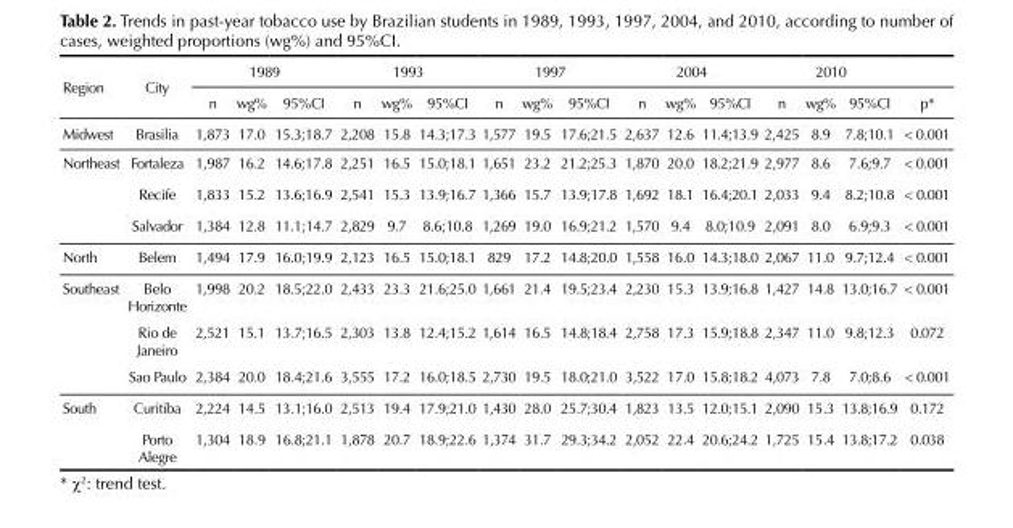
<table><thead><tr><td rowspan="2">Region</td><td rowspan="2">City</td><td colspan="3">1989</td><td colspan="3">1993</td><td colspan="3">1997</td><td colspan="3">2004</td><td colspan="3">2010</td><td rowspan="2">p*</td></tr><tr><td>n</td><td>wg%</td><td>95%CI</td><td>n</td><td>wg%</td><td>95%CI</td><td>n</td><td>wg%</td><td>95%CI</td><td>n</td><td>wg%</td><td>95%CI</td><td>n</td><td>wg%</td><td>95%CI</td></tr></thead><tbody><tr><td>Midwest</td><td>Brasilia</td><td>1,873</td><td>17.0</td><td>15.3;18.7</td><td>2,208</td><td>15.8</td><td>14.3;17.3</td><td>1,577</td><td>19.5</td><td>17.6;21.5</td><td>2,637</td><td>12.6</td><td>11.4;13.9</td><td>2,425</td><td>8.9</td><td>7.8;10.1</td><td>&lt; 0.001</td></tr><tr><td rowspan="3">Northeast</td><td>Fortaleza</td><td>1,987</td><td>16.2</td><td>14.6;17.8</td><td>2,251</td><td>16.5</td><td>15.0;18.1</td><td>1,651</td><td>23.2</td><td>21.2;25.3</td><td>1,870</td><td>20.0</td><td>18.2;21.9</td><td>2,977</td><td>8.6</td><td>7.6;9.7</td><td>&lt; 0.001</td></tr><tr><td>Recife</td><td>1,833</td><td>15.2</td><td>13.6;16.9</td><td>2,541</td><td>15.3</td><td>13.9;16.7</td><td>1,366</td><td>15.7</td><td>13.9;17.8</td><td>1,692</td><td>18.1</td><td>16.4;20.1</td><td>2,033</td><td>9.4</td><td>8.2;10.8</td><td>&lt; 0.001</td></tr><tr><td>Salvador</td><td>1,384</td><td>12.8</td><td>11.1;14.7</td><td>2,829</td><td>9.7</td><td>8.6;10.8</td><td>1,269</td><td>19.0</td><td>16.9;21.2</td><td>1,570</td><td>9.4</td><td>8.0;10.9</td><td>2,091</td><td>8.0</td><td>6.9;9.3</td><td>&lt; 0.001</td></tr><tr><td>North</td><td>Belem</td><td>1,494</td><td>17.9</td><td>16.0;19.9</td><td>2,123</td><td>16.5</td><td>15.0;18.1</td><td>829</td><td>17.2</td><td>14.8;20.0</td><td>1,558</td><td>16.0</td><td>14.3;18.0</td><td>2,067</td><td>11.0</td><td>9.7;12.4</td><td>&lt; 0.001</td></tr><tr><td rowspan="3">Southeast</td><td>Belo Horizonte</td><td>1,998</td><td>20.2</td><td>18.5;22.0</td><td>2,433</td><td>23.3</td><td>21.6;25.0</td><td>1,661</td><td>21.4</td><td>19.5;23.4</td><td>2,230</td><td>15.3</td><td>13.9;16.8</td><td>1,427</td><td>14.8</td><td>13.0;16.7</td><td>&lt; 0.001</td></tr><tr><td>Rio de Janeiro</td><td>2,521</td><td>15.1</td><td>13.7;16.5</td><td>2,303</td><td>13.8</td><td>12.4;15.2</td><td>1,614</td><td>16.5</td><td>14.8;18.4</td><td>2,758</td><td>17.3</td><td>15.9;18.8</td><td>2,347</td><td>11.0</td><td>9.8;12.3</td><td>0.072</td></tr><tr><td>Sao Paulo</td><td>2,384</td><td>20.0</td><td>18.4;21.6</td><td>3,555</td><td>17.2</td><td>16.0;18.5</td><td>2,730</td><td>19.5</td><td>18.0;21.0</td><td>3,522</td><td>17.0</td><td>15.8;18.2</td><td>4,073</td><td>7.8</td><td>7.0;8.6</td><td>&lt; 0.001</td></tr><tr><td rowspan="2">South</td><td>Curitiba</td><td>2,224</td><td>14.5</td><td>13.1;16.0</td><td>2,513</td><td>19.4</td><td>17.9;21.0</td><td>1,430</td><td>28.0</td><td>25.7;30.4</td><td>1,823</td><td>13.5</td><td>12.0;15.1</td><td>2,090</td><td>15.3</td><td>13.8;16.9</td><td>0.172</td></tr><tr><td>Porto Alegre</td><td>1,304</td><td>18.9</td><td>16.8;21.1</td><td>1,878</td><td>20.7</td><td>18.9;22.6</td><td>1,374</td><td>31.7</td><td>29.3;34.2</td><td>2,052</td><td>22.4</td><td>20.6;24.2</td><td>1,725</td><td>15.4</td><td>13.8;17.2</td><td>0.038</td></tr></tbody></table>